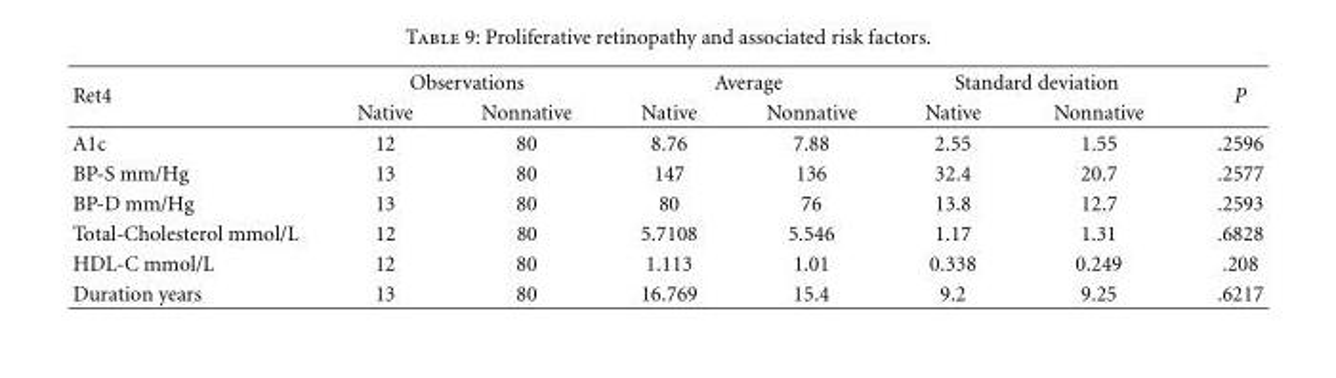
<table><thead><tr><td rowspan="2">Ret4</td><td colspan="2">Observations</td><td colspan="2">Average</td><td colspan="2">Standard deviation</td><td rowspan="2">P</td></tr><tr><td>Native</td><td>Nonnative</td><td>Native</td><td>Nonnative</td><td>Native</td><td>Nonnative</td></tr></thead><tbody><tr><td>A1c</td><td>12</td><td>80</td><td>8.76</td><td>7.88</td><td>2.55</td><td>1.55</td><td>.2596</td></tr><tr><td>BP-S mm/Hg</td><td>13</td><td>80</td><td>147</td><td>136</td><td>32.4</td><td>20.7</td><td>.2577</td></tr><tr><td>BP-D mm/Hg</td><td>13</td><td>80</td><td>80</td><td>76</td><td>13.8</td><td>12.7</td><td>.2593</td></tr><tr><td>Total-Cholesterol mmol/L</td><td>12</td><td>80</td><td>5.7108</td><td>5.546</td><td>1.17</td><td>1.31</td><td>.6828</td></tr><tr><td>HDL-C mmol/L</td><td>12</td><td>80</td><td>1.113</td><td>1.01</td><td>0.338</td><td>0.249</td><td>.208</td></tr><tr><td>Duration years</td><td>13</td><td>80</td><td>16.769</td><td>15.4</td><td>9.2</td><td>9.25</td><td>.6217</td></tr></tbody></table>